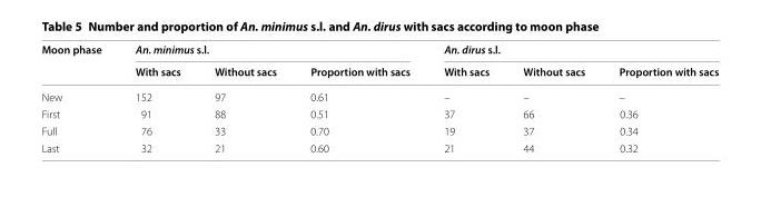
<table><thead><tr><td rowspan="2">Moon phase</td><td colspan="3">An. minimus s.l.</td><td colspan="3">An. dirus s.l.</td></tr><tr><td>With sacs</td><td>Without sacs</td><td>Proportion with sacs</td><td>With sacs</td><td>Without sacs</td><td>Proportion with sacs</td></tr></thead><tbody><tr><td>New</td><td>152</td><td>97</td><td>0.61</td><td>–</td><td>–</td><td>–</td></tr><tr><td>First</td><td>91</td><td>88</td><td>0.51</td><td>37</td><td>66</td><td>0.36</td></tr><tr><td>Full</td><td>76</td><td>33</td><td>0.70</td><td>19</td><td>37</td><td>0.34</td></tr><tr><td>Last</td><td>32</td><td>21</td><td>0.60</td><td>21</td><td>44</td><td>0.32</td></tr></tbody></table>